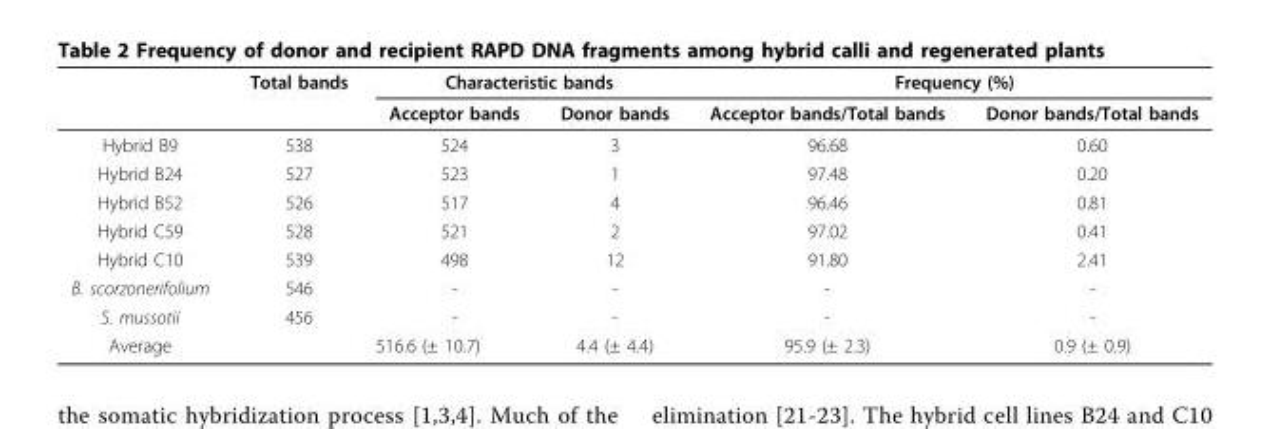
<table><thead><tr><td rowspan="2"></td><td rowspan="2">Total bands</td><td colspan="2">Characteristic bands</td><td colspan="2">Frequency (%)</td></tr><tr><td>Acceptor bands</td><td>Donor bands</td><td>Acceptor bands/Total bands</td><td>Donor bands/Total bands</td></tr></thead><tbody><tr><td>Hybrid B9</td><td>538</td><td>524</td><td>3</td><td>96.68</td><td>0.60</td></tr><tr><td>Hybrid B24</td><td>527</td><td>523</td><td>1</td><td>97.48</td><td>0.20</td></tr><tr><td>Hybrid B52</td><td>526</td><td>517</td><td>4</td><td>96.46</td><td>0.81</td></tr><tr><td>Hybrid C59</td><td>528</td><td>521</td><td>2</td><td>97.02</td><td>0.41</td></tr><tr><td>Hybrid C10</td><td>539</td><td>498</td><td>12</td><td>91.80</td><td>2.41</td></tr><tr><td>B. scorzonerifolium</td><td>546</td><td>-</td><td>-</td><td>-</td><td>-</td></tr><tr><td>S. mussotii</td><td>456</td><td>-</td><td>-</td><td>-</td><td>-</td></tr><tr><td>Average</td><td></td><td>516.6 (± 10.7)</td><td>4.4 (± 4.4)</td><td>95.9 (± 2.3)</td><td>0.9 (± 0.9)</td></tr></tbody></table>